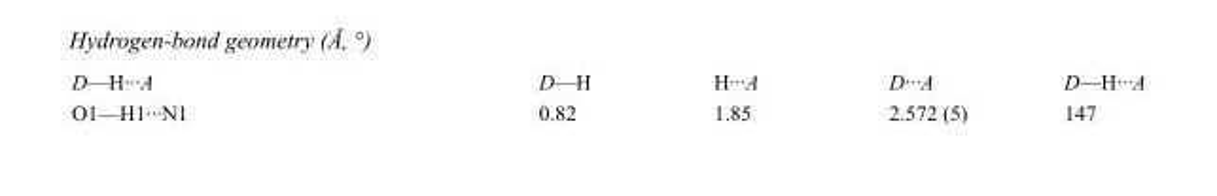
<table><tbody><tr><td>D—H···A</td><td>D—H</td><td>H···A</td><td>D···A</td><td>D—H···A</td></tr><tr><td>O1—H1···N1</td><td>0.82</td><td>1.85</td><td>2.572 (5)</td><td>147</td></tr></tbody></table>